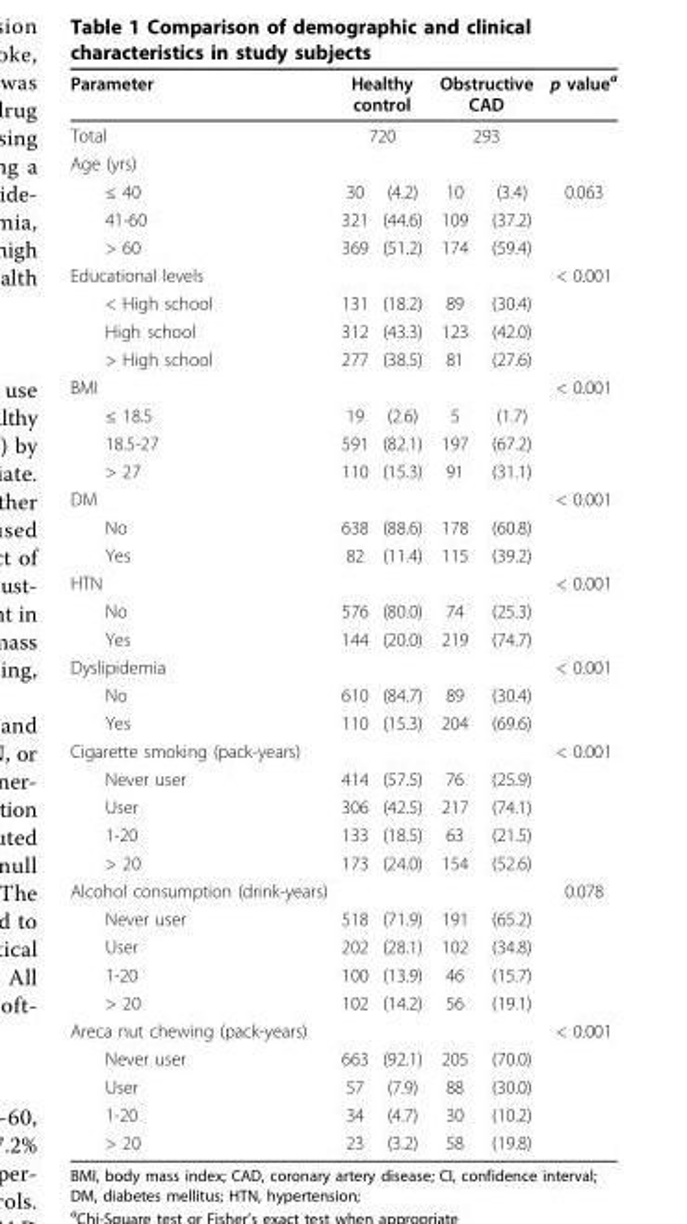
<table><thead><tr><td rowspan="3">Parameter Total Age (yrs)</td><td rowspan="2" colspan="2">Healthy control 720</td><td rowspan="2" colspan="2">Obstructive CAD 293</td><td rowspan="3">p value<sup>a</sup></td></tr><tr></tr><tr><td></td><td></td><td></td><td></td></tr></thead><tbody><tr><td>≤ 40</td><td>30</td><td>(4.2)</td><td>10</td><td>(3.4)</td><td>0.063</td></tr><tr><td>41-60</td><td>321</td><td>(44.6)</td><td>109</td><td>(37.2)</td><td></td></tr><tr><td>&gt; 60</td><td>369</td><td>(51.2)</td><td>174</td><td>(59.4)</td><td></td></tr><tr><td>Educational levels</td><td></td><td></td><td></td><td></td><td>&lt; 0.001</td></tr><tr><td>&lt; High school</td><td>131</td><td>(18.2)</td><td>89</td><td>(30.4)</td><td></td></tr><tr><td>High school</td><td>312</td><td>(43.3)</td><td>123</td><td>(42.0)</td><td></td></tr><tr><td>&gt; High school</td><td>277</td><td>(38.5)</td><td>81</td><td>(27.6)</td><td></td></tr><tr><td>BMI</td><td></td><td></td><td></td><td></td><td>&lt; 0.001</td></tr><tr><td>≤ 18.5</td><td>19</td><td>(2.6)</td><td>5</td><td>(1.7)</td><td></td></tr><tr><td>18.5-27</td><td>591</td><td>(82.1)</td><td>197</td><td>(67.2)</td><td></td></tr><tr><td>&gt; 27</td><td>110</td><td>(15.3)</td><td>91</td><td>(31.1)</td><td></td></tr><tr><td>DM</td><td></td><td></td><td></td><td></td><td>&lt; 0.001</td></tr><tr><td>No</td><td>638</td><td>(88.6)</td><td>178</td><td>(60.8)</td><td></td></tr><tr><td>Yes</td><td>82</td><td>(11.4)</td><td>115</td><td>(39.2)</td><td></td></tr><tr><td>HTN</td><td></td><td></td><td></td><td></td><td>&lt; 0.001</td></tr><tr><td>No</td><td>576</td><td>(80.0)</td><td>74</td><td>(25.3)</td><td></td></tr><tr><td>Yes</td><td>144</td><td>(20.0)</td><td>219</td><td>(74.7)</td><td></td></tr><tr><td>Dyslipidemia</td><td></td><td></td><td></td><td></td><td>&lt; 0.001</td></tr><tr><td>No</td><td>610</td><td>(84.7)</td><td>89</td><td>(30.4)</td><td></td></tr><tr><td>Yes</td><td>110</td><td>(15.3)</td><td>204</td><td>(69.6)</td><td></td></tr><tr><td>Cigarette smoking (pack-years)</td><td></td><td></td><td></td><td></td><td>&lt; 0.001</td></tr><tr><td>Never user</td><td>414</td><td>(57.5)</td><td>76</td><td>(25.9)</td><td></td></tr><tr><td>User</td><td>306</td><td>(42.5)</td><td>217</td><td>(74.1)</td><td></td></tr><tr><td>1-20</td><td>133</td><td>(18.5)</td><td>63</td><td>(21.5)</td><td></td></tr><tr><td>&gt; 20</td><td>173</td><td>(24.0)</td><td>154</td><td>(52.6)</td><td></td></tr><tr><td>Alcohol consumption (drink-years)</td><td></td><td></td><td></td><td></td><td>0.078</td></tr><tr><td>Never user</td><td>518</td><td>(71.9)</td><td>191</td><td>(65.2)</td><td></td></tr><tr><td>User</td><td>202</td><td>(28.1)</td><td>102</td><td>(34.8)</td><td></td></tr><tr><td>1-20</td><td>100</td><td>(13.9)</td><td>46</td><td>(15.7)</td><td></td></tr><tr><td>&gt; 20</td><td>102</td><td>(14.2)</td><td>56</td><td>(19.1)</td><td></td></tr><tr><td>Areca nut chewing (pack-years)</td><td></td><td></td><td></td><td></td><td>&lt; 0.001</td></tr><tr><td>Never user</td><td>663</td><td>(92.1)</td><td>205</td><td>(70.0)</td><td></td></tr><tr><td>User</td><td>57</td><td>(7.9)</td><td>88</td><td>(30.0)</td><td></td></tr><tr><td>1-20</td><td>34</td><td>(4.7)</td><td>30</td><td>(10.2)</td><td></td></tr><tr><td>&gt; 20</td><td>23</td><td>(3.2)</td><td>58</td><td>(19.8)</td><td></td></tr></tbody></table>